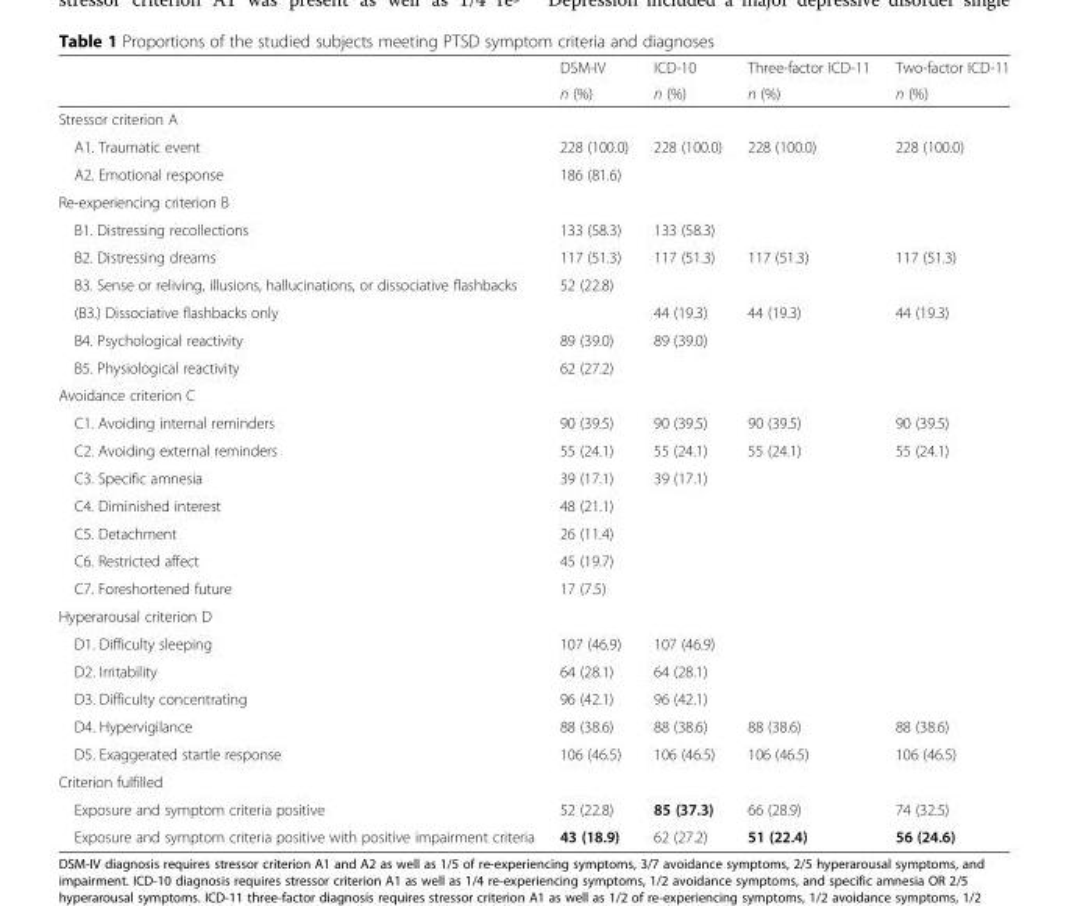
<table><thead><tr><td rowspan="2"></td><td rowspan="2">DSM-IV n (%)</td><td rowspan="2">ICD-10 n (%)</td><td rowspan="2">Three-factor ICD-11 n (%)</td><td rowspan="2">Two-factor ICD-11 n (%)</td></tr><tr></tr></thead><tbody><tr><td colspan="5">Stressor criterion A</td></tr><tr><td>A1. Traumatic event</td><td>228 (100.0)</td><td>228 (100.0)</td><td>228 (100.0)</td><td>228 (100.0)</td></tr><tr><td>A2. Emotional response</td><td>186 (81.6)</td><td></td><td></td><td></td></tr><tr><td colspan="5">Re-experiencing criterion B</td></tr><tr><td>B1. Distressing recollections</td><td>133 (58.3)</td><td>133 (58.3)</td><td></td><td></td></tr><tr><td>B2. Distressing dreams</td><td>117 (51.3)</td><td>117 (51.3)</td><td>117 (51.3)</td><td>117 (51.3)</td></tr><tr><td>B3. Sense or reliving, illusions, hallucinations, or dissociative flashbacks</td><td>52 (22.8)</td><td></td><td></td><td></td></tr><tr><td>(B3.) Dissociative flashbacks only</td><td></td><td>44 (19.3)</td><td>44 (19.3)</td><td>44 (19.3)</td></tr><tr><td>B4. Psychological reactivity</td><td>89 (39.0)</td><td>89 (39.0)</td><td></td><td></td></tr><tr><td>B5. Physiological reactivity</td><td>62 (27.2)</td><td></td><td></td><td></td></tr><tr><td colspan="5">Avoidance criterion C</td></tr><tr><td>C1. Avoiding internal reminders</td><td>90 (39.5)</td><td>90 (39.5)</td><td>90 (39.5)</td><td>90 (39.5)</td></tr><tr><td>C2. Avoiding external reminders</td><td>55 (24.1)</td><td>55 (24.1)</td><td>55 (24.1)</td><td>55 (24.1)</td></tr><tr><td>C3. Specific amnesia</td><td>39 (17.1)</td><td>39 (17.1)</td><td></td><td></td></tr><tr><td>C4. Diminished interest</td><td>48 (21.1)</td><td></td><td></td><td></td></tr><tr><td>C5. Detachment</td><td>26 (11.4)</td><td></td><td></td><td></td></tr><tr><td>C6. Restricted affect</td><td>45 (19.7)</td><td></td><td></td><td></td></tr><tr><td>C7. Foreshortened future</td><td>17 (7.5)</td><td></td><td></td><td></td></tr><tr><td colspan="5">Hyperarousal criterion D</td></tr><tr><td>D1. Difficulty sleeping</td><td>107 (46.9)</td><td>107 (46.9)</td><td></td><td></td></tr><tr><td>D2. Irritability</td><td>64 (28.1)</td><td>64 (28.1)</td><td></td><td></td></tr><tr><td>D3. Difficulty concentrating</td><td>96 (42.1)</td><td>96 (42.1)</td><td></td><td></td></tr><tr><td>D4. Hypervigilance</td><td>88 (38.6)</td><td>88 (38.6)</td><td>88 (38.6)</td><td>88 (38.6)</td></tr><tr><td>D5. Exaggerated startle response</td><td>106 (46.5)</td><td>106 (46.5)</td><td>106 (46.5)</td><td>106 (46.5)</td></tr><tr><td colspan="5">Criterion fulfilled</td></tr><tr><td>Exposure and symptom criteria positive</td><td>52 (22.8)</td><td>85 (37.3)</td><td>66 (28.9)</td><td>74 (32.5)</td></tr><tr><td>Exposure and symptom criteria positive with positive impairment criteria</td><td>43 (18.9)</td><td>62 (27.2)</td><td>51 (22.4)</td><td>56 (24.6)</td></tr></tbody></table>